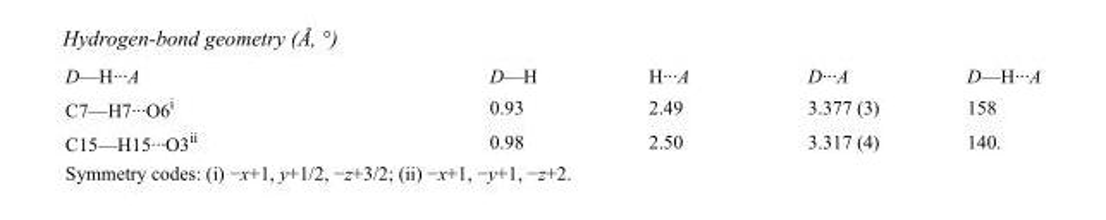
<table><tbody><tr><td>D—H···A</td><td>D—H</td><td>H···A</td><td>D···A</td><td>D—H···A</td></tr><tr><td>C7—H7···O6<sup>i</sup></td><td>0.93</td><td>2.49</td><td>3.377 (3)</td><td>158</td></tr><tr><td>C15—H15···O3<sup>ii</sup></td><td>0.98</td><td>2.50</td><td>3.317 (4)</td><td>140.</td></tr></tbody></table>